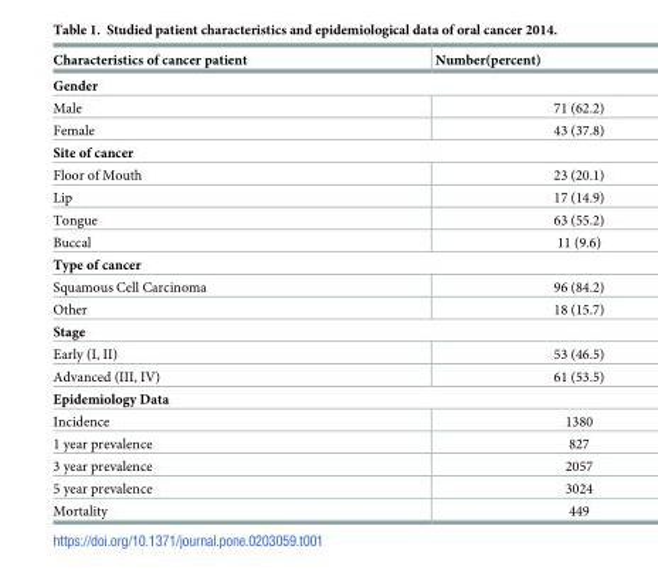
<table><thead><tr><td>Characteristics of cancer patient</td><td>Number(percent)</td></tr></thead><tbody><tr><td colspan="2">Gender</td></tr><tr><td>Male</td><td>71 (62.2)</td></tr><tr><td>Female</td><td>43 (37.8)</td></tr><tr><td colspan="2">Site of cancer</td></tr><tr><td>Floor of Mouth</td><td>23 (20.1)</td></tr><tr><td>Lip</td><td>17 (14.9)</td></tr><tr><td>Tongue</td><td>63 (55.2)</td></tr><tr><td>Buccal</td><td>11 (9.6)</td></tr><tr><td colspan="2">Type of cancer</td></tr><tr><td>Squamous Cell Carcinoma</td><td>96 (84.2)</td></tr><tr><td>Other</td><td>18 (15.7)</td></tr><tr><td colspan="2">Stage</td></tr><tr><td>Early (I, II)</td><td>53 (46.5)</td></tr><tr><td>Advanced (III, IV)</td><td>61 (53.5)</td></tr><tr><td colspan="2">Epidemiology Data</td></tr><tr><td>Incidence</td><td>1380</td></tr><tr><td>1 year prevalence</td><td>827</td></tr><tr><td>3 year prevalence</td><td>2057</td></tr><tr><td>5 year prevalence</td><td>3024</td></tr><tr><td>Mortality</td><td>449</td></tr></tbody></table>